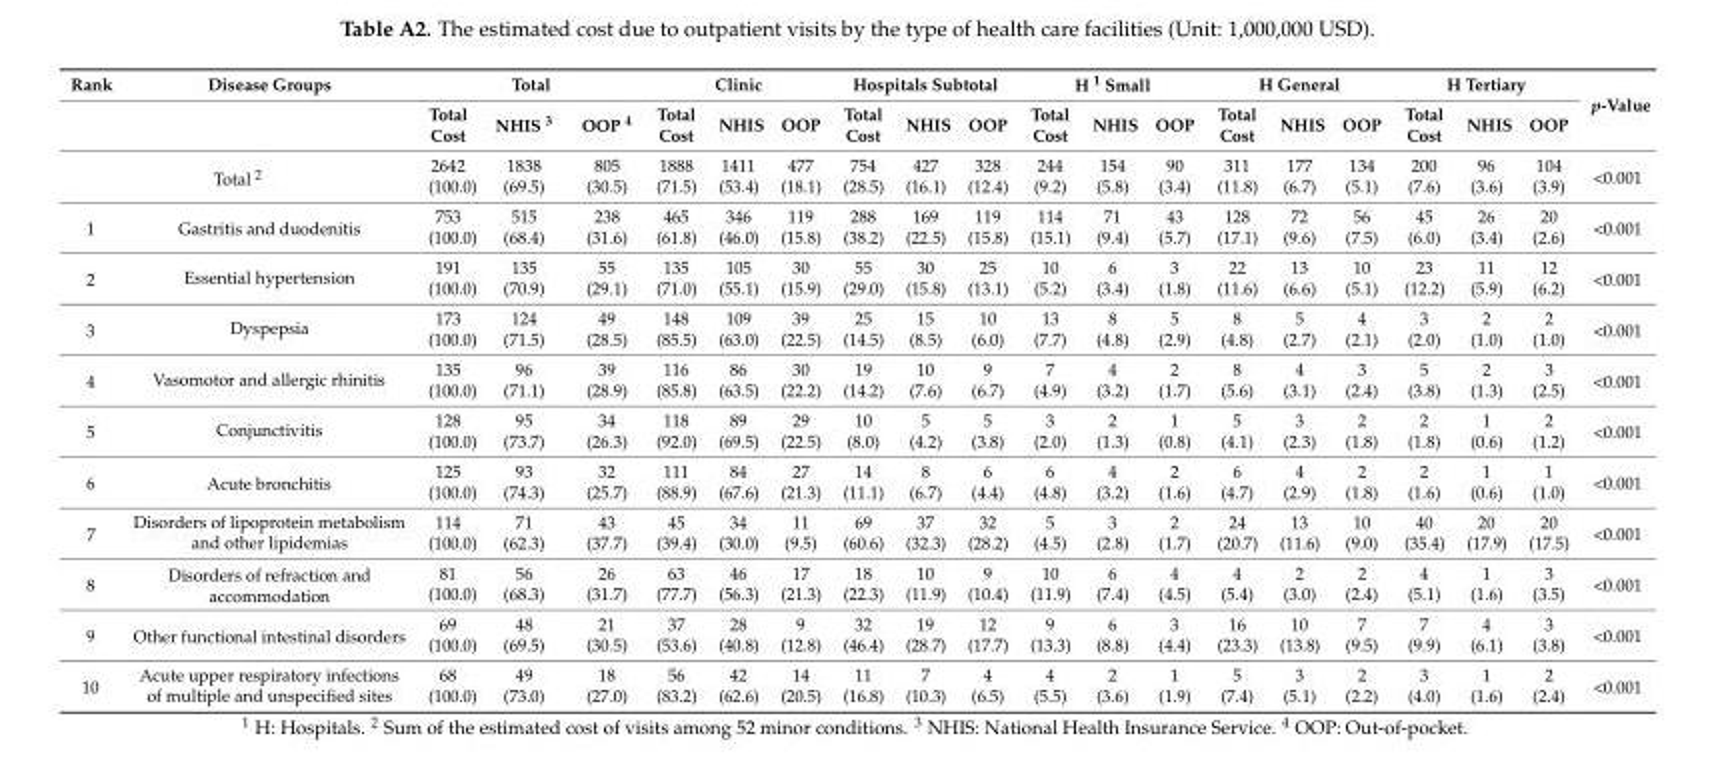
<table><thead><tr><td rowspan="2">Rank</td><td rowspan="2">Disease Groups</td><td colspan="3">Total</td><td colspan="3">Clinic</td><td colspan="3">Hospitals Subtotal</td><td colspan="3">H <sup>1</sup> Small</td><td colspan="3">H General</td><td colspan="3">H Tertiary</td><td rowspan="2">p-Value</td></tr><tr><td>Total Cost</td><td>NHIS <sup>3</sup></td><td>OOP <sup>4</sup></td><td>Total Cost</td><td>NHIS</td><td>OOP</td><td>Total Cost</td><td>NHIS</td><td>OOP</td><td>Total Cost</td><td>NHIS</td><td>OOP</td><td>Total Cost</td><td>NHIS</td><td>OOP</td><td>Total Cost</td><td>NHIS</td><td>OOP</td></tr></thead><tbody><tr><td rowspan="2" colspan="2">Total <sup>2</sup></td><td>2642</td><td>1838</td><td>805</td><td>1888</td><td>1411</td><td>477</td><td>754</td><td>427</td><td>328</td><td>244</td><td>154</td><td>90</td><td>311</td><td>177</td><td>134</td><td>200</td><td>96</td><td>104</td><td rowspan="2">&lt;0.001</td></tr><tr><td>(100.0)</td><td>(69.5)</td><td>(30.5)</td><td>(71.5)</td><td>(53.4)</td><td>(18.1)</td><td>(28.5)</td><td>(16.1)</td><td>(12.4)</td><td>(9.2)</td><td>(5.8)</td><td>(3.4)</td><td>(11.8)</td><td>(6.7)</td><td>(5.1)</td><td>(7.6)</td><td>(3.6)</td><td>(3.9)</td></tr><tr><td rowspan="2">1</td><td rowspan="2">Gastritis and duodenitis</td><td>753</td><td>515</td><td>238</td><td>465</td><td>346</td><td>119</td><td>288</td><td>169</td><td>119</td><td>114</td><td>71</td><td>43</td><td>128</td><td>72</td><td>56</td><td>45</td><td>26</td><td>20</td><td rowspan="2">&lt;0.001</td></tr><tr><td>(100.0)</td><td>(68.4)</td><td>(31.6)</td><td>(61.8)</td><td>(46.0)</td><td>(15.8)</td><td>(38.2)</td><td>(22.5)</td><td>(15.8)</td><td>(15.1)</td><td>(9.4)</td><td>(5.7)</td><td>(17.1)</td><td>(9.6)</td><td>(7.5)</td><td>(6.0)</td><td>(3.4)</td><td>(2.6)</td></tr><tr><td rowspan="2">2</td><td rowspan="2">Essential hypertension</td><td>191</td><td>135</td><td>55</td><td>135</td><td>105</td><td>30</td><td>55</td><td>30</td><td>25</td><td>10</td><td>6</td><td>3</td><td>22</td><td>13</td><td>10</td><td>23</td><td>11</td><td>12</td><td rowspan="2">&lt;0.001</td></tr><tr><td>(100.0)</td><td>(70.9)</td><td>(29.1)</td><td>(71.0)</td><td>(55.1)</td><td>(15.9)</td><td>(29.0)</td><td>(15.8)</td><td>(13.1)</td><td>(5.2)</td><td>(3.4)</td><td>(1.8)</td><td>(11.6)</td><td>(6.6)</td><td>(5.1)</td><td>(12.2)</td><td>(5.9)</td><td>(6.2)</td></tr><tr><td rowspan="2">3</td><td rowspan="2">Dyspepsia</td><td>173</td><td>124</td><td>49</td><td>148</td><td>109</td><td>39</td><td>25</td><td>15</td><td>10</td><td>13</td><td>8</td><td>5</td><td>8</td><td>5</td><td>4</td><td>3</td><td>2</td><td>2</td><td rowspan="2">&lt;0.001</td></tr><tr><td>(100.0)</td><td>(71.5)</td><td>(28.5)</td><td>(85.5)</td><td>(63.0)</td><td>(22.5)</td><td>(14.5)</td><td>(8.5)</td><td>(6.0)</td><td>(7.7)</td><td>(4.8)</td><td>(2.9)</td><td>(4.8)</td><td>(2.7)</td><td>(2.1)</td><td>(2.0)</td><td>(1.0)</td><td>(1.0)</td></tr><tr><td rowspan="2">4</td><td rowspan="2">Vasomotor and allergic rhinitis</td><td>135</td><td>96</td><td>39</td><td>116</td><td>86</td><td>30</td><td>19</td><td>10</td><td>9</td><td>7</td><td>4</td><td>2</td><td>8</td><td>4</td><td>3</td><td>5</td><td>2</td><td>3</td><td rowspan="2">&lt;0.001</td></tr><tr><td>(100.0)</td><td>(71.1)</td><td>(28.9)</td><td>(85.8)</td><td>(63.5)</td><td>(22.2)</td><td>(14.2)</td><td>(7.6)</td><td>(6.7)</td><td>(4.9)</td><td>(3.2)</td><td>(1.7)</td><td>(5.6)</td><td>(3.1)</td><td>(2.4)</td><td>(3.8)</td><td>(1.3)</td><td>(2.5)</td></tr><tr><td rowspan="2">5</td><td rowspan="2">Conjunctivitis</td><td>128</td><td>95</td><td>34</td><td>118</td><td>89</td><td>29</td><td>10</td><td>5</td><td>5</td><td>3</td><td>2</td><td>1</td><td>5</td><td>3</td><td>2</td><td>2</td><td>1</td><td>2</td><td rowspan="2">&lt;0.001</td></tr><tr><td>(100.0)</td><td>(73.7)</td><td>(26.3)</td><td>(92.0)</td><td>(69.5)</td><td>(22.5)</td><td>(8.0)</td><td>(4.2)</td><td>(3.8)</td><td>(2.0)</td><td>(1.3)</td><td>(0.8)</td><td>(4.1)</td><td>(2.3)</td><td>(1.8)</td><td>(1.8)</td><td>(0.6)</td><td>(1.2)</td></tr><tr><td rowspan="2">6</td><td rowspan="2">Acute bronchitis</td><td>125</td><td>93</td><td>32</td><td>111</td><td>84</td><td>27</td><td>14</td><td>8</td><td>6</td><td>6</td><td>4</td><td>2</td><td>6</td><td>4</td><td>2</td><td>2</td><td>1</td><td>1</td><td rowspan="2">&lt;0.001</td></tr><tr><td>(100.0)</td><td>(74.3)</td><td>(25.7)</td><td>(88.9)</td><td>(67.6)</td><td>(21.3)</td><td>(11.1)</td><td>(6.7)</td><td>(4.4)</td><td>(4.8)</td><td>(3.2)</td><td>(1.6)</td><td>(4.7)</td><td>(2.9)</td><td>(1.8)</td><td>(1.6)</td><td>(0.6)</td><td>(1.0)</td></tr><tr><td rowspan="2">7</td><td rowspan="2">Disorders of lipoprotein metabolism and other lipidemias</td><td>114</td><td>71</td><td>43</td><td>45</td><td>34</td><td>11</td><td>69</td><td>37</td><td>32</td><td>5</td><td>3</td><td>2</td><td>24</td><td>13</td><td>10</td><td>40</td><td>20</td><td>20</td><td rowspan="2">&lt;0.001</td></tr><tr><td>(100.0)</td><td>(62.3)</td><td>(37.7)</td><td>(39.4)</td><td>(30.0)</td><td>(9.5)</td><td>(60.6)</td><td>(32.3)</td><td>(28.2)</td><td>(4.5)</td><td>(2.8)</td><td>(1.7)</td><td>(20.7)</td><td>(11.6)</td><td>(9.0)</td><td>(35.4)</td><td>(17.9)</td><td>(17.5)</td></tr><tr><td rowspan="2">8</td><td rowspan="2">Disorders of refraction and accommodation</td><td>81</td><td>56</td><td>26</td><td>63</td><td>46</td><td>17</td><td>18</td><td>10</td><td>9</td><td>10</td><td>6</td><td>4</td><td>4</td><td>2</td><td>2</td><td>4</td><td>1</td><td>3</td><td rowspan="2">&lt;0.001</td></tr><tr><td>(100.0)</td><td>(68.3)</td><td>(31.7)</td><td>(77.7)</td><td>(56.3)</td><td>(21.3)</td><td>(22.3)</td><td>(11.9)</td><td>(10.4)</td><td>(11.9)</td><td>(7.4)</td><td>(4.5)</td><td>(5.4)</td><td>(3.0)</td><td>(2.4)</td><td>(5.1)</td><td>(1.6)</td><td>(3.5)</td></tr><tr><td rowspan="2">9</td><td rowspan="2">Other functional intestinal disorders</td><td>69</td><td>48</td><td>21</td><td>37</td><td>28</td><td>9</td><td>32</td><td>19</td><td>12</td><td>9</td><td>6</td><td>3</td><td>16</td><td>10</td><td>7</td><td>7</td><td>4</td><td>3</td><td rowspan="2">&lt;0.001</td></tr><tr><td>(100.0)</td><td>(69.5)</td><td>(30.5)</td><td>(53.6)</td><td>(40.8)</td><td>(12.8)</td><td>(46.4)</td><td>(28.7)</td><td>(17.7)</td><td>(13.3)</td><td>(8.8)</td><td>(4.4)</td><td>(23.3)</td><td>(13.8)</td><td>(9.5)</td><td>(9.9)</td><td>(6.1)</td><td>(3.8)</td></tr><tr><td rowspan="2">10</td><td rowspan="2">Acute upper respiratory infections of multiple and unspecified sites</td><td>68</td><td>49</td><td>18</td><td>56</td><td>42</td><td>14</td><td>11</td><td>7</td><td>4</td><td>4</td><td>2</td><td>1</td><td>5</td><td>3</td><td>2</td><td>3</td><td>1</td><td>2</td><td rowspan="2">&lt;0.001</td></tr><tr><td>(100.0)</td><td>(73.0)</td><td>(27.0)</td><td>(83.2)</td><td>(62.6)</td><td>(20.5)</td><td>(16.8)</td><td>(10.3)</td><td>(6.5)</td><td>(5.5)</td><td>(3.6)</td><td>(1.9)</td><td>(7.4)</td><td>(5.1)</td><td>(2.2)</td><td>(4.0)</td><td>(1.6)</td><td>(2.4)</td></tr></tbody></table>